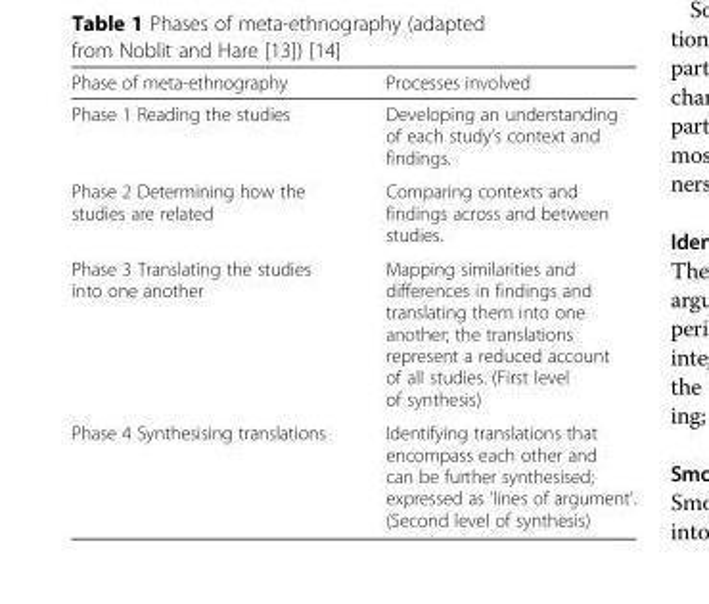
<table><thead><tr><td>Phase of meta-ethnography</td><td>Processes involved</td></tr></thead><tbody><tr><td>Phase 1 Reading the studies</td><td>Developing an understanding of each study’s context and findings.</td></tr><tr><td>Phase 2 Determining how the studies are related</td><td>Comparing contexts and findings across and between studies.</td></tr><tr><td>Phase 3 Translating the studies into one another</td><td>Mapping similarities and differences in findings and translating them into one another; the translations represent a reduced account of all studies. (First level of synthesis)</td></tr><tr><td>Phase 4 Synthesising translations</td><td>Identifying translations that encompass each other and can be further synthesised; expressed as ‘lines of argument’. (Second level of synthesis)</td></tr></tbody></table>